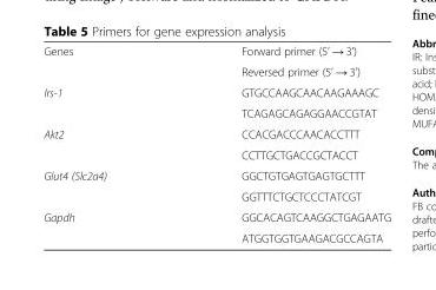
<table><tbody><tr><td rowspan="2">Genes</td><td>Forward primer (5’ → 3’)</td></tr><tr><td>Reversed primer (5’ → 3’)</td></tr><tr><td rowspan="2">Irs-1</td><td>GTGCCAAGCAACAAGAAAGC</td></tr><tr><td>TCAGAGCAGAGGAACCGTAT</td></tr><tr><td rowspan="2">Akt2</td><td>CCACGACCCAACACCTTT</td></tr><tr><td>CCTTGCTGACCGCTACCT</td></tr><tr><td rowspan="2">Glut4 (Slc2a4)</td><td>GGCTGTGAGTGAGTGCTTT</td></tr><tr><td>GGTTTCTGCTCCCTATCGT</td></tr><tr><td rowspan="2">Gapdh</td><td>GGCACAGTCAAGGCTGAGAATG</td></tr><tr><td>ATGGTGGTGAAGACGCCAGTA</td></tr></tbody></table>